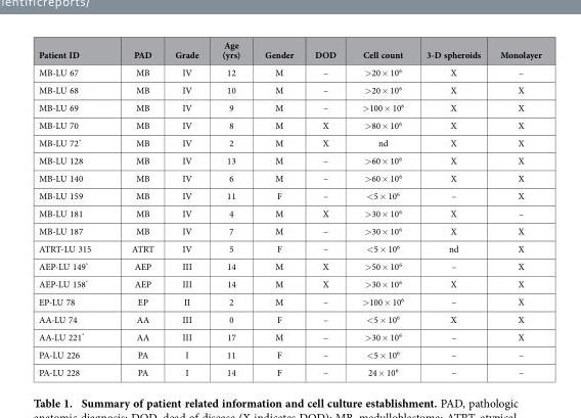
<table><thead><tr><td>Patient ID</td><td>PAD</td><td>Grade</td><td>Age (yrs)</td><td>Gender</td><td>DOD</td><td>Cell count</td><td>3-D spheroids</td><td>Monolayer</td></tr></thead><tbody><tr><td>MB-LU 67</td><td>MB</td><td>IV</td><td>12</td><td>M</td><td>–</td><td>&gt;20 × 10<sup>6</sup></td><td>X</td><td>–</td></tr><tr><td>MB-LU 68</td><td>MB</td><td>IV</td><td>10</td><td>M</td><td>–</td><td>&gt;20 × 10<sup>6</sup></td><td>X</td><td>X</td></tr><tr><td>MB-LU 69</td><td>MB</td><td>IV</td><td>9</td><td>M</td><td>–</td><td>&gt;100 × 10<sup>6</sup></td><td>X</td><td>X</td></tr><tr><td>MB-LU 70</td><td>MB</td><td>IV</td><td>8</td><td>M</td><td>X</td><td>&gt;80 × 10<sup>6</sup></td><td>X</td><td>X</td></tr><tr><td>MB-LU 72*</td><td>MB</td><td>IV</td><td>2</td><td>M</td><td>X</td><td>nd</td><td>X</td><td>X</td></tr><tr><td>MB-LU 128</td><td>MB</td><td>IV</td><td>13</td><td>M</td><td>–</td><td>&gt;60 × 10<sup>6</sup></td><td>X</td><td>X</td></tr><tr><td>MB-LU 140</td><td>MB</td><td>IV</td><td>6</td><td>M</td><td>–</td><td>&gt;60 × 10<sup>6</sup></td><td>X</td><td>X</td></tr><tr><td>MB-LU 159</td><td>MB</td><td>IV</td><td>11</td><td>F</td><td>–</td><td>&lt;5 × 10<sup>6</sup></td><td>–</td><td>X</td></tr><tr><td>MB-LU 181</td><td>MB</td><td>IV</td><td>4</td><td>M</td><td>X</td><td>&gt;30 × 10<sup>6</sup></td><td>X</td><td>–</td></tr><tr><td>MB-LU 187</td><td>MB</td><td>IV</td><td>7</td><td>M</td><td>–</td><td>&gt;30 × 10<sup>6</sup></td><td>X</td><td>X</td></tr><tr><td>ATRT-LU 315</td><td>ATRT</td><td>IV</td><td>5</td><td>F</td><td>–</td><td>&lt;5 × 10<sup>6</sup></td><td>nd</td><td>X</td></tr><tr><td>AEP-LU 149*</td><td>AEP</td><td>III</td><td>14</td><td>M</td><td>X</td><td>&gt;50 × 10<sup>6</sup></td><td>–</td><td>X</td></tr><tr><td>AEP-LU 158*</td><td>AEP</td><td>III</td><td>14</td><td>M</td><td>X</td><td>&gt;30 × 10<sup>6</sup></td><td>X</td><td>X</td></tr><tr><td>EP-LU 78</td><td>EP</td><td>II</td><td>2</td><td>M</td><td>–</td><td>&gt;100 × 10<sup>6</sup></td><td>–</td><td>X</td></tr><tr><td>AA-LU 74</td><td>AA</td><td>III</td><td>0</td><td>F</td><td>–</td><td>&lt;5 × 10<sup>6</sup></td><td>X</td><td>X</td></tr><tr><td>AA-LU 221*</td><td>AA</td><td>III</td><td>17</td><td>M</td><td>–</td><td>&gt;30 × 10<sup>6</sup></td><td>–</td><td>X</td></tr><tr><td>PA-LU 226</td><td>PA</td><td>I</td><td>11</td><td>F</td><td>–</td><td>&lt;5 × 10<sup>6</sup></td><td>–</td><td>–</td></tr><tr><td>PA-LU 228</td><td>PA</td><td>I</td><td>14</td><td>F</td><td>–</td><td>24 × 10<sup>6</sup></td><td>–</td><td>–</td></tr></tbody></table>